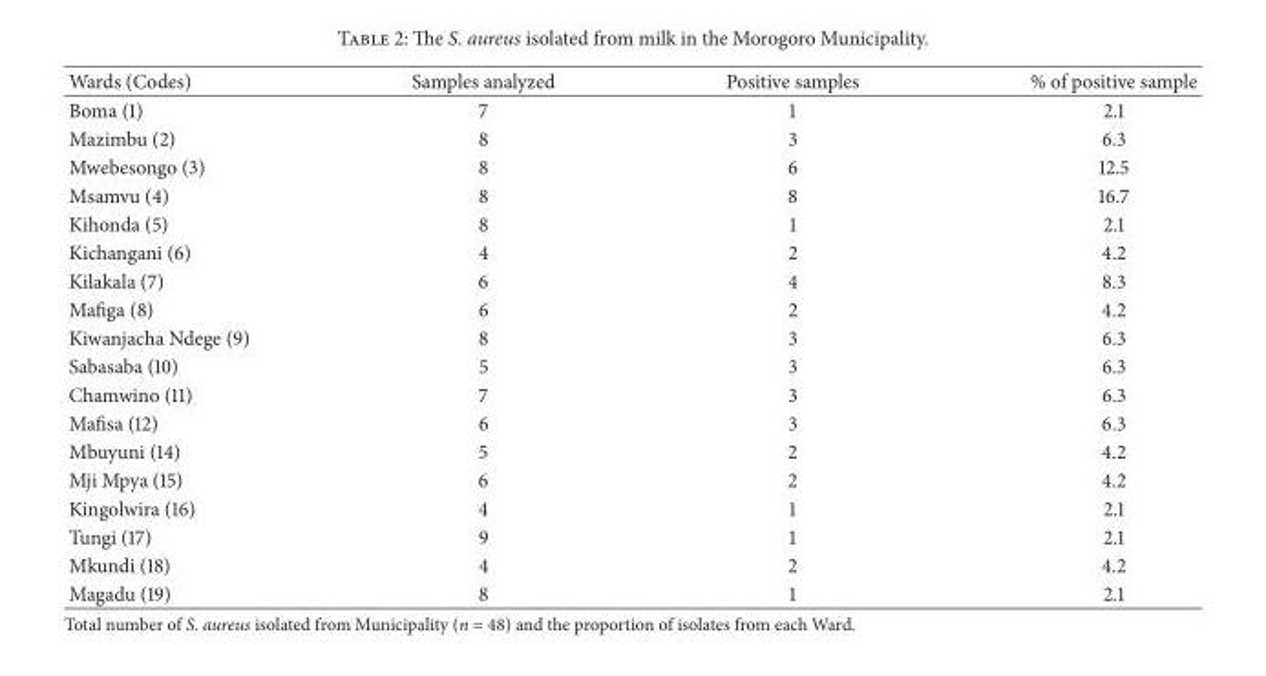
<table><thead><tr><td>Wards (Codes)</td><td>Samples analyzed</td><td>Positive samples</td><td>% of positive sample</td></tr></thead><tbody><tr><td>Boma (1)</td><td>7</td><td>1</td><td>2.1</td></tr><tr><td>Mazimbu (2)</td><td>8</td><td>3</td><td>6.3</td></tr><tr><td>Mwebesongo (3)</td><td>8</td><td>6</td><td>12.5</td></tr><tr><td>Msamvu (4)</td><td>8</td><td>8</td><td>16.7</td></tr><tr><td>Kihonda (5)</td><td>8</td><td>1</td><td>2.1</td></tr><tr><td>Kichangani (6)</td><td>4</td><td>2</td><td>4.2</td></tr><tr><td>Kilakala (7)</td><td>6</td><td>4</td><td>8.3</td></tr><tr><td>Mafiga (8)</td><td>6</td><td>2</td><td>4.2</td></tr><tr><td>Kiwanjacha Ndege (9)</td><td>8</td><td>3</td><td>6.3</td></tr><tr><td>Sabasaba (10)</td><td>5</td><td>3</td><td>6.3</td></tr><tr><td>Chamwino (11)</td><td>7</td><td>3</td><td>6.3</td></tr><tr><td>Mafisa (12)</td><td>6</td><td>3</td><td>6.3</td></tr><tr><td>Mbuyuni (14)</td><td>5</td><td>2</td><td>4.2</td></tr><tr><td>Mji Mpya (15)</td><td>6</td><td>2</td><td>4.2</td></tr><tr><td>Kingolwira (16)</td><td>4</td><td>1</td><td>2.1</td></tr><tr><td>Tungi (17)</td><td>9</td><td>1</td><td>2.1</td></tr><tr><td>Mkundi (18)</td><td>4</td><td>2</td><td>4.2</td></tr><tr><td>Magadu (19)</td><td>8</td><td>1</td><td>2.1</td></tr></tbody></table>